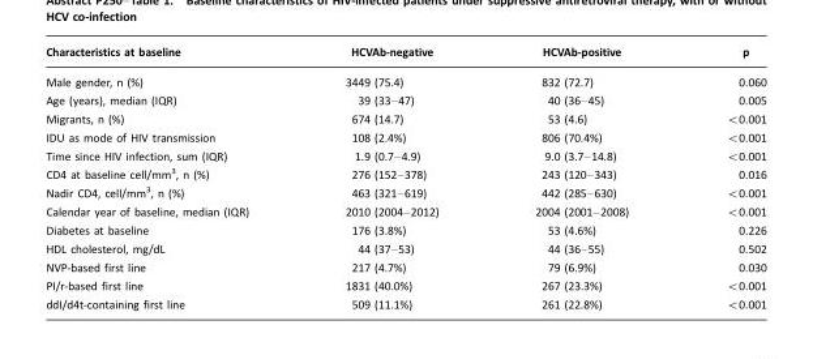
<table><thead><tr><td>Characteristics at baseline</td><td>HCVAb-negative</td><td>HCVAb-positive</td><td>p</td></tr></thead><tbody><tr><td>Male gender, n (%)</td><td>3449 (75.4)</td><td>832 (72.7)</td><td>0.060</td></tr><tr><td>Age (years), median (IQR)</td><td>39 (33–47)</td><td>40 (36–45)</td><td>0.005</td></tr><tr><td>Migrants, n (%)</td><td>674 (14.7)</td><td>53 (4.6)</td><td>&lt;0.001</td></tr><tr><td>IDU as mode of HIV transmission</td><td>108 (2.4%)</td><td>806 (70.4%)</td><td>&lt;0.001</td></tr><tr><td>Time since HIV infection, sum (IQR)</td><td>1.9 (0.7–4.9)</td><td>9.0 (3.7–14.8)</td><td>&lt;0.001</td></tr><tr><td>CD4 at baseline cell/mm3, n (%)</td><td>276 (152–378)</td><td>243 (120–343)</td><td>0.016</td></tr><tr><td>Nadir CD4, cell/mm3, n (%)</td><td>463 (321–619)</td><td>442 (285–630)</td><td>&lt;0.001</td></tr><tr><td>Calendar year of baseline, median (IQR)</td><td>2010 (2004–2012)</td><td>2004 (2001–2008)</td><td>&lt;0.001</td></tr><tr><td>Diabetes at baseline</td><td>176 (3.8%)</td><td>53 (4.6%)</td><td>0.226</td></tr><tr><td>HDL cholesterol, mg/dL</td><td>44 (37–53)</td><td>44 (36–55)</td><td>0.502</td></tr><tr><td>NVP-based first line</td><td>217 (4.7%)</td><td>79 (6.9%)</td><td>0.030</td></tr><tr><td>PI/r-based first line</td><td>1831 (40.0%)</td><td>267 (23.3%)</td><td>&lt;0.001</td></tr><tr><td>ddI/d4t-containing first line</td><td>509 (11.1%)</td><td>261 (22.8%)</td><td>&lt;0.001</td></tr></tbody></table>